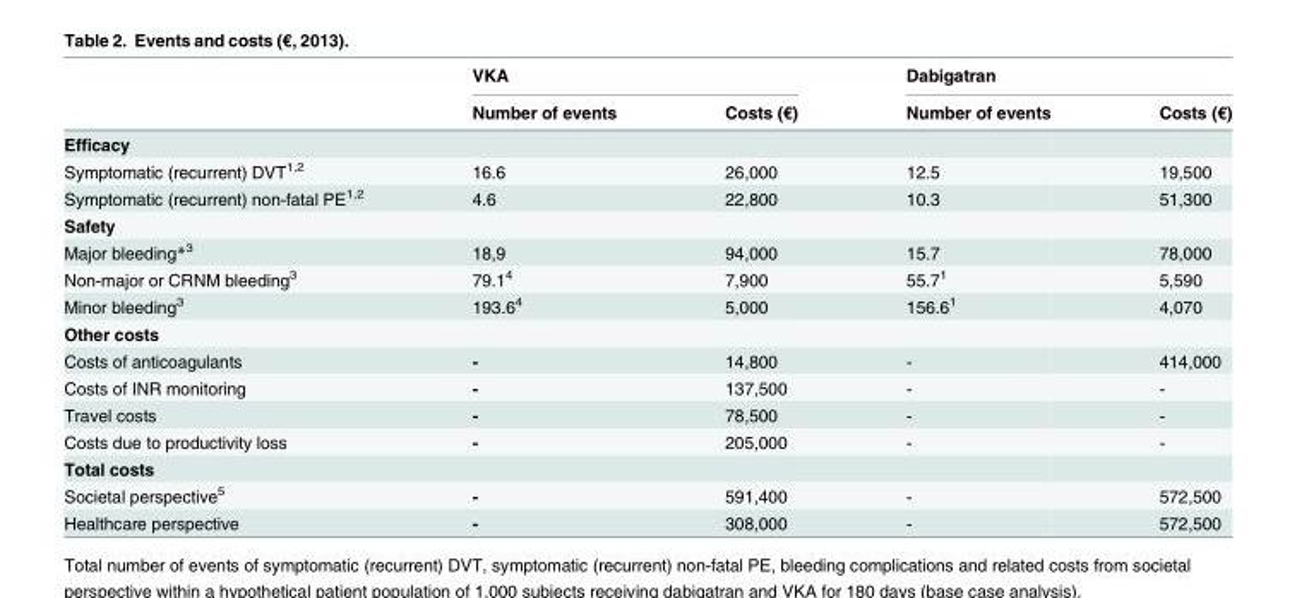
<table><thead><tr><td rowspan="2"></td><td colspan="2">VKA</td><td colspan="2">Dabigatran</td></tr><tr><td>Number of events</td><td>Costs (€)</td><td>Number of events</td><td>Costs (€)</td></tr></thead><tbody><tr><td colspan="5">Efficacy</td></tr><tr><td>Symptomatic (recurrent) DVT<sup>1,2</sup></td><td>16.6</td><td>26,000</td><td>12.5</td><td>19,500</td></tr><tr><td>Symptomatic (recurrent) non-fatal PE<sup>1,2</sup></td><td>4.6</td><td>22,800</td><td>10.3</td><td>51,300</td></tr><tr><td colspan="5">Safety</td></tr><tr><td>Major bleeding*<sup>3</sup></td><td>18,9</td><td>94,000</td><td>15.7</td><td>78,000</td></tr><tr><td>Non-major or CRNM bleeding<sup>3</sup></td><td>79.1<sup>4</sup></td><td>7,900</td><td>55.7<sup>1</sup></td><td>5,590</td></tr><tr><td>Minor bleeding<sup>3</sup></td><td>193.6<sup>4</sup></td><td>5,000</td><td>156.6<sup>1</sup></td><td>4,070</td></tr><tr><td colspan="5">Other costs</td></tr><tr><td>Costs of anticoagulants</td><td>-</td><td>14,800</td><td>-</td><td>414,000</td></tr><tr><td>Costs of INR monitoring</td><td>-</td><td>137,500</td><td>-</td><td>-</td></tr><tr><td>Travel costs</td><td>-</td><td>78,500</td><td>-</td><td>-</td></tr><tr><td>Costs due to productivity loss</td><td>-</td><td>205,000</td><td>-</td><td>-</td></tr><tr><td colspan="5">Total costs</td></tr><tr><td>Societal perspective<sup>5</sup></td><td>-</td><td>591,400</td><td>-</td><td>572,500</td></tr><tr><td>Healthcare perspective</td><td>-</td><td>308,000</td><td>-</td><td>572,500</td></tr></tbody></table>